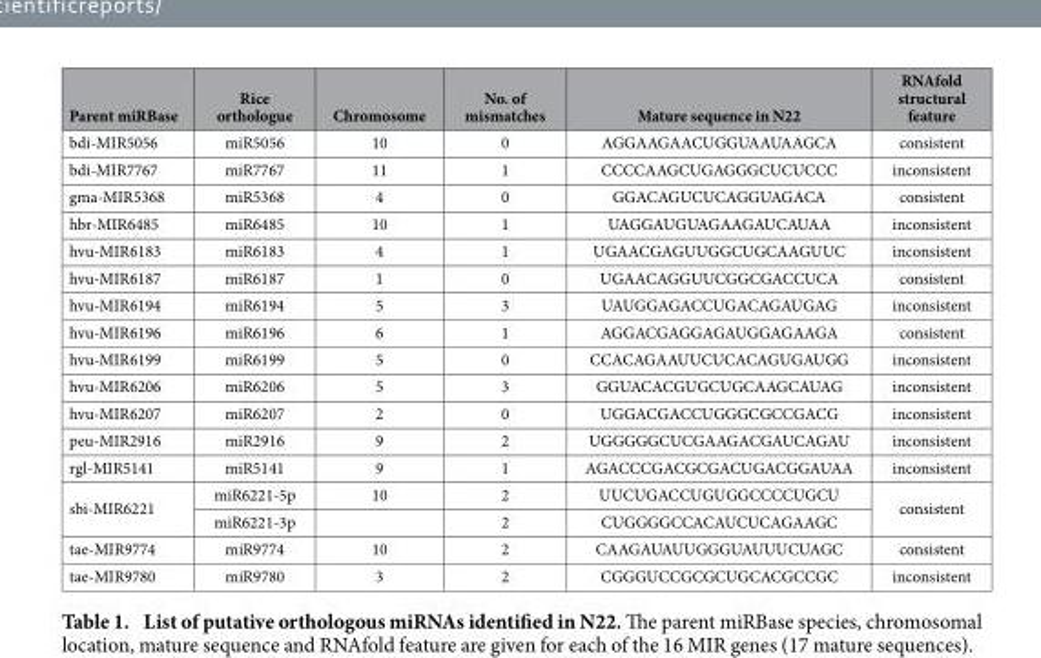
<table><thead><tr><td>Parent miRBase</td><td>Rice orthologue</td><td>Chromosome</td><td>No. of mismatches</td><td>Mature sequence in N22</td><td>RNAfold structural feature</td></tr></thead><tbody><tr><td>bdi-MIR5056</td><td>miR5056</td><td>10</td><td>0</td><td>AGGAAGAACUGGUAAUAAGCA</td><td>consistent</td></tr><tr><td>bdi-MIR7767</td><td>miR7767</td><td>11</td><td>1</td><td>CCCCAAGCUGAGGGCUCUCCC</td><td>inconsistent</td></tr><tr><td>gma-MIR5368</td><td>miR5368</td><td>4</td><td>0</td><td>GGACAGUCUCAGGUAGACA</td><td>consistent</td></tr><tr><td>hbr-MIR6485</td><td>miR6485</td><td>10</td><td>1</td><td>UAGGAUGUAGAAGAUCAUAA</td><td>inconsistent</td></tr><tr><td>hvu-MIR6183</td><td>miR6183</td><td>4</td><td>1</td><td>UGAACGAGUUGGCUGCAAGUUC</td><td>inconsistent</td></tr><tr><td>hvu-MIR6187</td><td>miR6187</td><td>1</td><td>0</td><td>UGAACAGGUUCGGCGACCUCA</td><td>consistent</td></tr><tr><td>hvu-MIR6194</td><td>miR6194</td><td>5</td><td>3</td><td>UAUGGAGACCUGACAGAUGAG</td><td>inconsistent</td></tr><tr><td>hvu-MIR6196</td><td>miR6196</td><td>6</td><td>1</td><td>AGGACGAGGAGAUGGAGAAGA</td><td>consistent</td></tr><tr><td>hvu-MIR6199</td><td>miR6199</td><td>5</td><td>0</td><td>CCACAGAAUUCUCACAGUGAUGG</td><td>inconsistent</td></tr><tr><td>hvu-MIR6206</td><td>miR6206</td><td>5</td><td>3</td><td>GGUACACGUGCUGCAAGCAUAG</td><td>inconsistent</td></tr><tr><td>hvu-MIR6207</td><td>miR6207</td><td>2</td><td>0</td><td>UGGACGACCUGGGCGCCGACG</td><td>inconsistent</td></tr><tr><td>peu-MIR2916</td><td>miR2916</td><td>9</td><td>2</td><td>UGGGGGCUCGAAGACGAUCAGAU</td><td>inconsistent</td></tr><tr><td>rgl-MIR5141</td><td>miR5141</td><td>9</td><td>1</td><td>AGACCCGACGCGACUGACGGAUAA</td><td>inconsistent</td></tr><tr><td rowspan="2">sbi-MIR6221</td><td>miR6221-5p</td><td>10</td><td>2</td><td>UUCUGACCUGUGGCCCCUGCU</td><td rowspan="2">consistent</td></tr><tr><td>miR6221-3p</td><td></td><td>2</td><td>CUGGGGCCACAUCUCAGAAGC</td></tr><tr><td>tae-MIR9774</td><td>miR9774</td><td>10</td><td>2</td><td>CAAGAUAUUGGGUAUUUCUAGC</td><td>consistent</td></tr><tr><td>tae-MIR9780</td><td>miR9780</td><td>3</td><td>2</td><td>CGGGUCCGCGCUGCACGCCGC</td><td>inconsistent</td></tr></tbody></table>